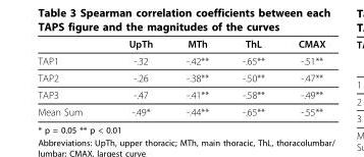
<table><thead><tr><td></td><td>UpTh</td><td>MTh</td><td>ThL</td><td>CMAX</td></tr></thead><tbody><tr><td>TAP1</td><td>-.32</td><td>-.42**</td><td>-.65**</td><td>-.51**</td></tr><tr><td>TAP2</td><td>-.26</td><td>-.38**</td><td>-.50**</td><td>-.47**</td></tr><tr><td>TAP3</td><td>-.47</td><td>-.41**</td><td>-.58**</td><td>-.49**</td></tr><tr><td>Mean Sum</td><td>-.49*</td><td>-.44**</td><td>-.65**</td><td>-.55**</td></tr></tbody></table>